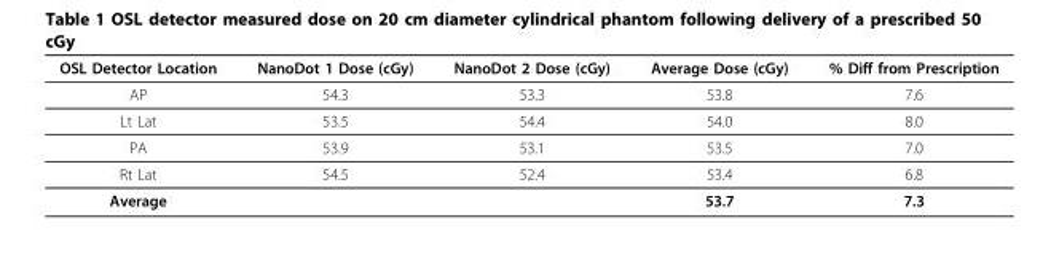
<table><thead><tr><td>OSL Detector Location</td><td>NanoDot 1 Dose (cGy)</td><td>NanoDot 2 Dose (cGy)</td><td>Average Dose (cGy)</td><td>% Diff from Prescription</td></tr></thead><tbody><tr><td>AP</td><td>54.3</td><td>53.3</td><td>53.8</td><td>7.6</td></tr><tr><td>Lt Lat</td><td>53.5</td><td>54.4</td><td>54.0</td><td>8.0</td></tr><tr><td>PA</td><td>53.9</td><td>53.1</td><td>53.5</td><td>7.0</td></tr><tr><td>Rt Lat</td><td>54.5</td><td>52.4</td><td>53.4</td><td>6.8</td></tr><tr><td>Average</td><td></td><td></td><td>53.7</td><td>7.3</td></tr></tbody></table>